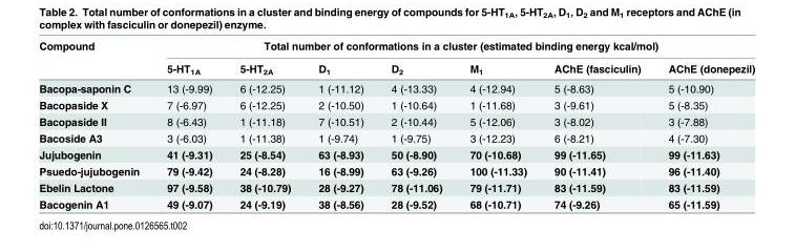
<table><thead><tr><td rowspan="2">Compound</td><td colspan="7">Total number of conformations in a cluster (estimated binding energy kcal/mol)</td></tr><tr><td>5-HT<sub>1A</sub></td><td>5-HT<sub>2A</sub></td><td>D<sub>1</sub></td><td>D<sub>2</sub></td><td>M<sub>1</sub></td><td>AChE (fasciculin)</td><td>AChE (donepezil)</td></tr></thead><tbody><tr><td>Bacopa-saponin C</td><td>13 (-9.99)</td><td>6 (-12.25)</td><td>1 (-11.12)</td><td>4 (-13.33)</td><td>4 (-12.94)</td><td>5 (-8.63)</td><td>5 (-10.90)</td></tr><tr><td>Bacopaside X</td><td>7 (-6.97)</td><td>6 (-12.25)</td><td>2 (-10.50)</td><td>1 (-10.64)</td><td>1 (-11.68)</td><td>3 (-9.61)</td><td>5 (-8.35)</td></tr><tr><td>Bacopaside II</td><td>8 (-6.43)</td><td>1 (-11.18)</td><td>7 (-10.51)</td><td>2 (-10.44)</td><td>5 (-12.06)</td><td>3 (-8.02)</td><td>3 (-7.88)</td></tr><tr><td>Bacoside A3</td><td>3 (-6.03)</td><td>1 (-11.38)</td><td>1 (-9.74)</td><td>1 (-9.75)</td><td>3 (-12.23)</td><td>6 (-8.21)</td><td>4 (-7.30)</td></tr><tr><td>Jujubogenin</td><td>41 (-9.31)</td><td>25 (-8.54)</td><td>63 (-8.93)</td><td>50 (-8.90)</td><td>70 (-10.68)</td><td>99 (-11.65)</td><td>99 (-11.63)</td></tr><tr><td>Psuedo-jujubogenin</td><td>79 (-9.42)</td><td>24 (-8.28)</td><td>16 (-8.99)</td><td>63 (-9.26)</td><td>100 (-11.33)</td><td>90 (-11.41)</td><td>96 (-11.40)</td></tr><tr><td>Ebelin Lactone</td><td>97 (-9.58)</td><td>38 (-10.79)</td><td>28 (-9.27)</td><td>78 (-11.06)</td><td>79 (-11.71)</td><td>83 (-11.59)</td><td>83 (-11.59)</td></tr><tr><td>Bacogenin A1</td><td>49 (-9.07)</td><td>24 (-9.19)</td><td>38 (-8.56)</td><td>28 (-9.52)</td><td>68 (-10.71)</td><td>74 (-9.26)</td><td>65 (-11.59)</td></tr></tbody></table>